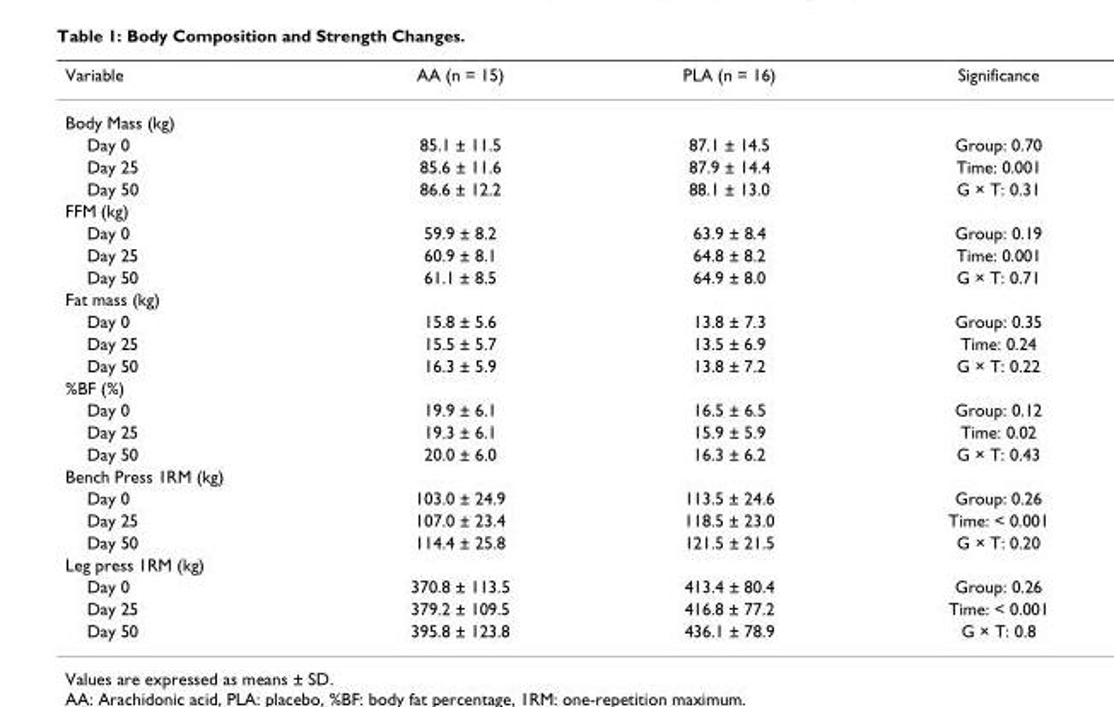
<table><thead><tr><td>Variable</td><td>AA (n = 15)</td><td>PLA (n = 16)</td><td>Significance</td></tr></thead><tbody><tr><td colspan="4">Body Mass (kg)</td></tr><tr><td>Day 0</td><td>85.1 ± 11.5</td><td>87.1 ± 14.5</td><td>Group: 0.70</td></tr><tr><td>Day 25</td><td>85.6 ± 11.6</td><td>87.9 ± 14.4</td><td>Time: 0.001</td></tr><tr><td>Day 50</td><td>86.6 ± 12.2</td><td>88.1 ± 13.0</td><td>G × T: 0.31</td></tr><tr><td colspan="4">FFM (kg)</td></tr><tr><td>Day 0</td><td>59.9 ± 8.2</td><td>63.9 ± 8.4</td><td>Group: 0.19</td></tr><tr><td>Day 25</td><td>60.9 ± 8.1</td><td>64.8 ± 8.2</td><td>Time: 0.001</td></tr><tr><td>Day 50</td><td>61.1 ± 8.5</td><td>64.9 ± 8.0</td><td>G × T: 0.71</td></tr><tr><td colspan="4">Fat mass (kg)</td></tr><tr><td>Day 0</td><td>15.8 ± 5.6</td><td>13.8 ± 7.3</td><td>Group: 0.35</td></tr><tr><td>Day 25</td><td>15.5 ± 5.7</td><td>13.5 ± 6.9</td><td>Time: 0.24</td></tr><tr><td>Day 50</td><td>16.3 ± 5.9</td><td>13.8 ± 7.2</td><td>G × T: 0.22</td></tr><tr><td colspan="4">%BF (%)</td></tr><tr><td>Day 0</td><td>19.9 ± 6.1</td><td>16.5 ± 6.5</td><td>Group: 0.12</td></tr><tr><td>Day 25</td><td>19.3 ± 6.1</td><td>15.9 ± 5.9</td><td>Time: 0.02</td></tr><tr><td>Day 50</td><td>20.0 ± 6.0</td><td>16.3 ± 6.2</td><td>G × T: 0.43</td></tr><tr><td colspan="4">Bench Press 1RM (kg)</td></tr><tr><td>Day 0</td><td>103.0 ± 24.9</td><td>113.5 ± 24.6</td><td>Group: 0.26</td></tr><tr><td>Day 25</td><td>107.0 ± 23.4</td><td>118.5 ± 23.0</td><td>Time: &lt; 0.001</td></tr><tr><td>Day 50</td><td>114.4 ± 25.8</td><td>121.5 ± 21.5</td><td>G × T: 0.20</td></tr><tr><td colspan="4">Leg press 1RM (kg)</td></tr><tr><td>Day 0</td><td>370.8 ± 113.5</td><td>413.4 ± 80.4</td><td>Group: 0.26</td></tr><tr><td>Day 25</td><td>379.2 ± 109.5</td><td>416.8 ± 77.2</td><td>Time: &lt; 0.001</td></tr><tr><td>Day 50</td><td>395.8 ± 123.8</td><td>436.1 ± 78.9</td><td>G × T: 0.8</td></tr></tbody></table>